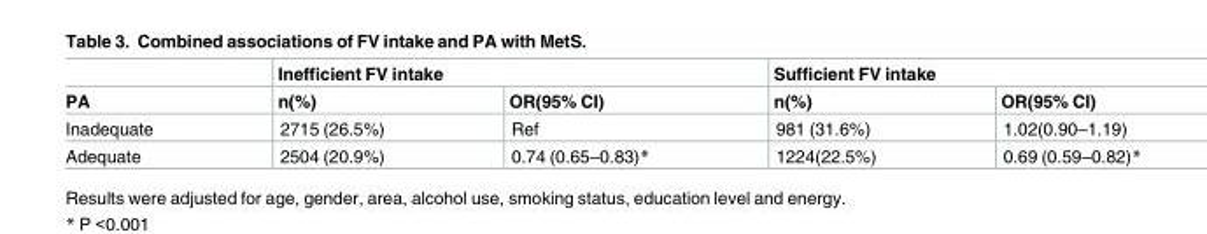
<table><thead><tr><td rowspan="2">PA</td><td colspan="2">Inefficient FV intake</td><td colspan="2">Sufficient FV intake</td></tr><tr><td>n(%)</td><td>OR(95% CI)</td><td>n(%)</td><td>OR(95% CI)</td></tr></thead><tbody><tr><td>Inadequate</td><td>2715 (26.5%)</td><td>Ref</td><td>981 (31.6%)</td><td>1.02(0.90–1.19)</td></tr><tr><td>Adequate</td><td>2504 (20.9%)</td><td>0.74 (0.65–0.83)*</td><td>1224(22.5%)</td><td>0.69 (0.59–0.82)*</td></tr></tbody></table>